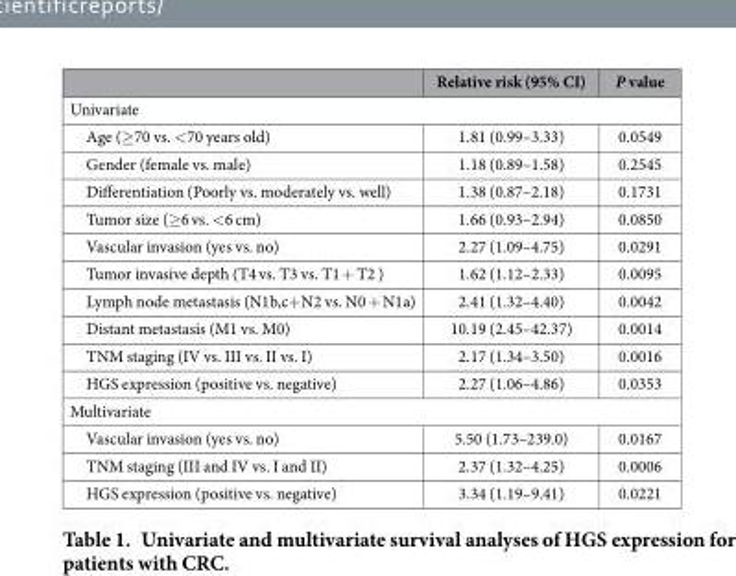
<table><thead><tr><td></td><td>Relative risk (95% CI)</td><td>P value</td></tr></thead><tbody><tr><td colspan="3">Univariate</td></tr><tr><td>Age (≥ 70 vs. &lt; 70 years old)</td><td>1.81 (0.99–3.33)</td><td>0.0549</td></tr><tr><td>Gender (female vs. male)</td><td>1.18 (0.89–1.58)</td><td>0.2545</td></tr><tr><td>Differentiation (Poorly vs. moderately vs. well)</td><td>1.38 (0.87–2.18)</td><td>0.1731</td></tr><tr><td>Tumor size (≥ 6 vs. &lt; 6 cm)</td><td>1.66 (0.93–2.94)</td><td>0.0850</td></tr><tr><td>Vascular invasion (yes vs. no)</td><td>2.27 (1.09–4.75)</td><td>0.0291</td></tr><tr><td>Tumor invasive depth (T4 vs. T3 vs. T1 + T2 )</td><td>1.62 (1.12–2.33)</td><td>0.0095</td></tr><tr><td>Lymph node metastasis (N1b,c+ N2 vs. N0 + N1a)</td><td>2.41 (1.32–4.40)</td><td>0.0042</td></tr><tr><td>Distant metastasis (M1 vs. M0)</td><td>10.19 (2.45–42.37)</td><td>0.0014</td></tr><tr><td>TNM staging (IV vs. III vs. II vs. I)</td><td>2.17 (1.34–3.50)</td><td>0.0016</td></tr><tr><td>HGS expression (positive vs. negative)</td><td>2.27 (1.06–4.86)</td><td>0.0353</td></tr><tr><td colspan="3">Multivariate</td></tr><tr><td>Vascular invasion (yes vs. no)</td><td>5.50 (1.73–239.0)</td><td>0.0167</td></tr><tr><td>TNM staging (III and IV vs. I and II)</td><td>2.37 (1.32–4.25)</td><td>0.0006</td></tr><tr><td>HGS expression (positive vs. negative)</td><td>3.34 (1.19–9.41)</td><td>0.0221</td></tr></tbody></table>